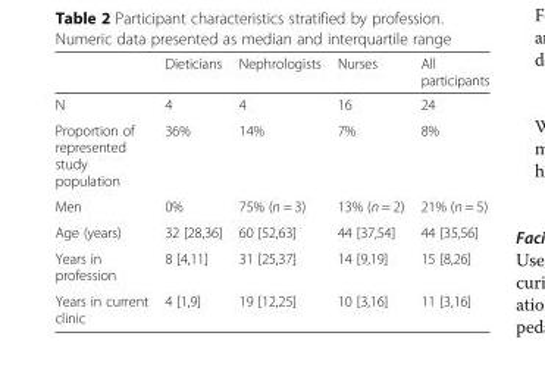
<table><thead><tr><td></td><td>Dieticians</td><td>Nephrologists</td><td>Nurses</td><td>All participants</td></tr></thead><tbody><tr><td>N</td><td>4</td><td>4</td><td>16</td><td>24</td></tr><tr><td>Proportion of represented study population</td><td>36%</td><td>14%</td><td>7%</td><td>8%</td></tr><tr><td>Men</td><td>0%</td><td>75% (n = 3)</td><td>13% (n = 2)</td><td>21% (n = 5)</td></tr><tr><td>Age (years)</td><td>32 [28,36]</td><td>60 [52,63]</td><td>44 [37,54]</td><td>44 [35,56]</td></tr><tr><td>Years in profession</td><td>8 [4,11]</td><td>31 [25,37]</td><td>14 [9,19]</td><td>15 [8,26]</td></tr><tr><td>Years in current clinic</td><td>4 [1,9]</td><td>19 [12,25]</td><td>10 [3,16]</td><td>11 [3,16]</td></tr></tbody></table>